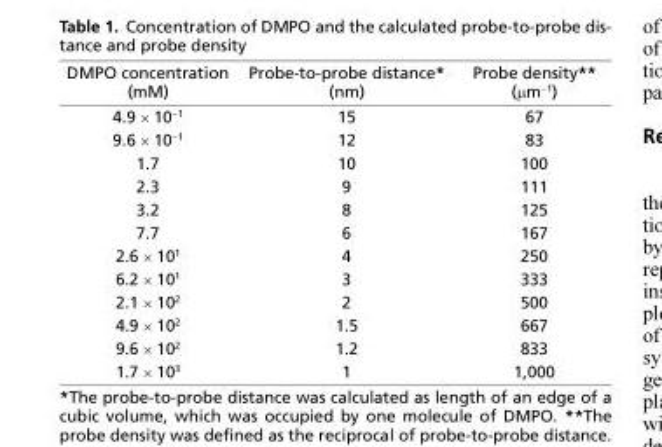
<table><thead><tr><td>DMPO concentration (mM)</td><td>Probe-to-probe distance* (nm)</td><td>Probe density** (μm<sup>−1</sup>)</td></tr></thead><tbody><tr><td>4.9 × 10<sup>−1</sup></td><td>15</td><td>67</td></tr><tr><td>9.6 × 10<sup>−1</sup></td><td>12</td><td>83</td></tr><tr><td>1.7</td><td>10</td><td>100</td></tr><tr><td>2.3</td><td>9</td><td>111</td></tr><tr><td>3.2</td><td>8</td><td>125</td></tr><tr><td>7.7</td><td>6</td><td>167</td></tr><tr><td>2.6 × 10<sup>1</sup></td><td>4</td><td>250</td></tr><tr><td>6.2 × 10<sup>1</sup></td><td>3</td><td>333</td></tr><tr><td>2.1 × 10<sup>2</sup></td><td>2</td><td>500</td></tr><tr><td>4.9 × 10<sup>2</sup></td><td>1.5</td><td>667</td></tr><tr><td>9.6 × 10<sup>2</sup></td><td>1.2</td><td>833</td></tr><tr><td>1.7 × 10<sup>3</sup></td><td>1</td><td>1,000</td></tr></tbody></table>